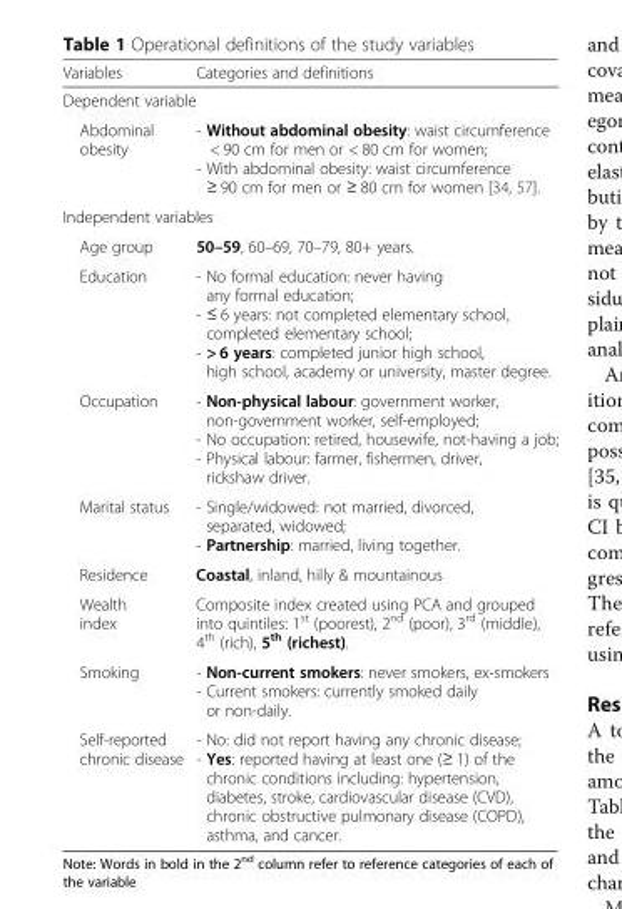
<table><thead><tr><td>Variables</td><td>Categories and definitions</td></tr></thead><tbody><tr><td colspan="2">Dependent variable</td></tr><tr><td>Abdominal obesity</td><td>- Without abdominal obesity: waist circumference &lt; 90 cm for men or &lt; 80 cm for women; - With abdominal obesity: waist circumference ≥ 90 cm for men or ≥ 80 cm for women [34, 57].</td></tr><tr><td colspan="2">Independent variables</td></tr><tr><td>Age group</td><td>50–59, 60–69, 70–79, 80+ years.</td></tr><tr><td>Education</td><td>- No formal education: never having any formal education; - ≤ 6 years: not completed elementary school, completed elementary school; - &gt; 6 years: completed junior high school, high school, academy or university, master degree.</td></tr><tr><td>Occupation</td><td>- Non-physical labour: government worker, non-government worker, self-employed; - No occupation: retired, housewife, not-having a job; - Physical labour: farmer, fishermen, driver, rickshaw driver.</td></tr><tr><td>Marital status</td><td>- Single/widowed: not married, divorced, separated, widowed; - Partnership: married, living together.</td></tr><tr><td>Residence</td><td>Coastal, inland, hilly &amp; mountainous</td></tr><tr><td>Wealth index</td><td>Composite index created using PCA and grouped into quintiles: 1<sup>st</sup> (poorest), 2<sup>nd</sup> (poor), 3<sup>rd</sup> (middle), 4<sup>th</sup> (rich), 5<sup>th</sup> (richest).</td></tr><tr><td>Smoking</td><td>- Non-current smokers: never smokers, ex-smokers - Current smokers: currently smoked daily or non-daily.</td></tr><tr><td>Self-reported chronic disease</td><td>- No: did not report having any chronic disease; - Yes: reported having at least one (≥ 1) of the chronic conditions including: hypertension, diabetes, stroke, cardiovascular disease (CVD), chronic obstructive pulmonary disease (COPD), asthma, and cancer.</td></tr></tbody></table>